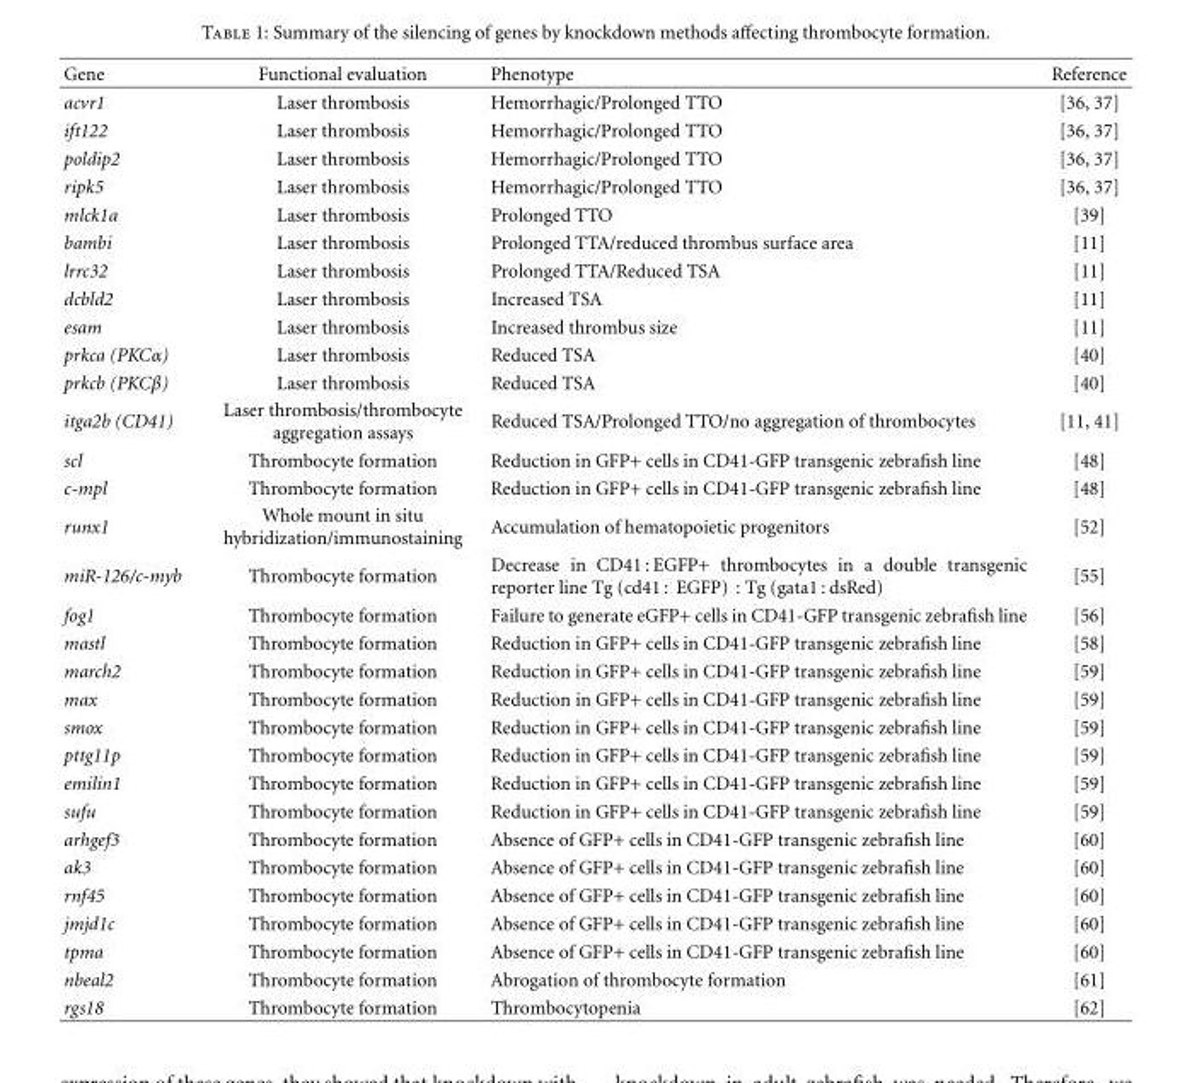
<table><thead><tr><td>Gene</td><td>Functional evaluation</td><td>Phenotype</td><td>Reference</td></tr></thead><tbody><tr><td>acvr1</td><td>Laser thrombosis</td><td>Hemorrhagic/Prolonged TTO</td><td>[36, 37]</td></tr><tr><td>ift122</td><td>Laser thrombosis</td><td>Hemorrhagic/Prolonged TTO</td><td>[36, 37]</td></tr><tr><td>poldip2</td><td>Laser thrombosis</td><td>Hemorrhagic/Prolonged TTO</td><td>[36, 37]</td></tr><tr><td>ripk5</td><td>Laser thrombosis</td><td>Hemorrhagic/Prolonged TTO</td><td>[36, 37]</td></tr><tr><td>mlck1a</td><td>Laser thrombosis</td><td>Prolonged TTO</td><td>[39]</td></tr><tr><td>bambi</td><td>Laser thrombosis</td><td>Prolonged TTA/reduced thrombus surface area</td><td>[11]</td></tr><tr><td>lrrc32</td><td>Laser thrombosis</td><td>Prolonged TTA/Reduced TSA</td><td>[11]</td></tr><tr><td>dcbld2</td><td>Laser thrombosis</td><td>Increased TSA</td><td>[11]</td></tr><tr><td>esam</td><td>Laser thrombosis</td><td>Increased thrombus size</td><td>[11]</td></tr><tr><td>prkca (PKCα)</td><td>Laser thrombosis</td><td>Reduced TSA</td><td>[40]</td></tr><tr><td>prkcb (PKCβ)</td><td>Laser thrombosis</td><td>Reduced TSA</td><td>[40]</td></tr><tr><td>itga2b (CD41)</td><td>Laser thrombosis/thrombocyte aggregation assays</td><td>Reduced TSA/Prolonged TTO/no aggregation of thrombocytes</td><td>[11, 41]</td></tr><tr><td>scl</td><td>Thrombocyte formation</td><td>Reduction in GFP+ cells in CD41-GFP transgenic zebrafish line</td><td>[48]</td></tr><tr><td>c-mpl</td><td>Thrombocyte formation</td><td>Reduction in GFP+ cells in CD41-GFP transgenic zebrafish line</td><td>[48]</td></tr><tr><td>runx1</td><td>Whole mount in situ hybridization/immunostaining</td><td>Accumulation of hematopoietic progenitors</td><td>[52]</td></tr><tr><td>miR-126/c-myb</td><td>Thrombocyte formation</td><td>Decrease in CD41 : EGFP+ thrombocytes in a double transgenic reporter line Tg (cd41 : EGFP) : Tg (gata1 : dsRed)</td><td>[55]</td></tr><tr><td>fog1</td><td>Thrombocyte formation</td><td>Failure to generate eGFP+ cells in CD41-GFP transgenic zebrafish line</td><td>[56]</td></tr><tr><td>mastl</td><td>Thrombocyte formation</td><td>Reduction in GFP+ cells in CD41-GFP transgenic zebrafish line</td><td>[58]</td></tr><tr><td>march2</td><td>Thrombocyte formation</td><td>Reduction in GFP+ cells in CD41-GFP transgenic zebrafish line</td><td>[59]</td></tr><tr><td>max</td><td>Thrombocyte formation</td><td>Reduction in GFP+ cells in CD41-GFP transgenic zebrafish line</td><td>[59]</td></tr><tr><td>smox</td><td>Thrombocyte formation</td><td>Reduction in GFP+ cells in CD41-GFP transgenic zebrafish line</td><td>[59]</td></tr><tr><td>pttg11p</td><td>Thrombocyte formation</td><td>Reduction in GFP+ cells in CD41-GFP transgenic zebrafish line</td><td>[59]</td></tr><tr><td>emilin1</td><td>Thrombocyte formation</td><td>Reduction in GFP+ cells in CD41-GFP transgenic zebrafish line</td><td>[59]</td></tr><tr><td>sufu</td><td>Thrombocyte formation</td><td>Reduction in GFP+ cells in CD41-GFP transgenic zebrafish line</td><td>[59]</td></tr><tr><td>arhgef3</td><td>Thrombocyte formation</td><td>Absence of GFP+ cells in CD41-GFP transgenic zebrafish line</td><td>[60]</td></tr><tr><td>ak3</td><td>Thrombocyte formation</td><td>Absence of GFP+ cells in CD41-GFP transgenic zebrafish line</td><td>[60]</td></tr><tr><td>rnf45</td><td>Thrombocyte formation</td><td>Absence of GFP+ cells in CD41-GFP transgenic zebrafish line</td><td>[60]</td></tr><tr><td>jmjd1c</td><td>Thrombocyte formation</td><td>Absence of GFP+ cells in CD41-GFP transgenic zebrafish line</td><td>[60]</td></tr><tr><td>tpma</td><td>Thrombocyte formation</td><td>Absence of GFP+ cells in CD41-GFP transgenic zebrafish line</td><td>[60]</td></tr><tr><td>nbeal2</td><td>Thrombocyte formation</td><td>Abrogation of thrombocyte formation</td><td>[61]</td></tr><tr><td>rgs18</td><td>Thrombocyte formation</td><td>Thrombocytopenia</td><td>[62]</td></tr></tbody></table>